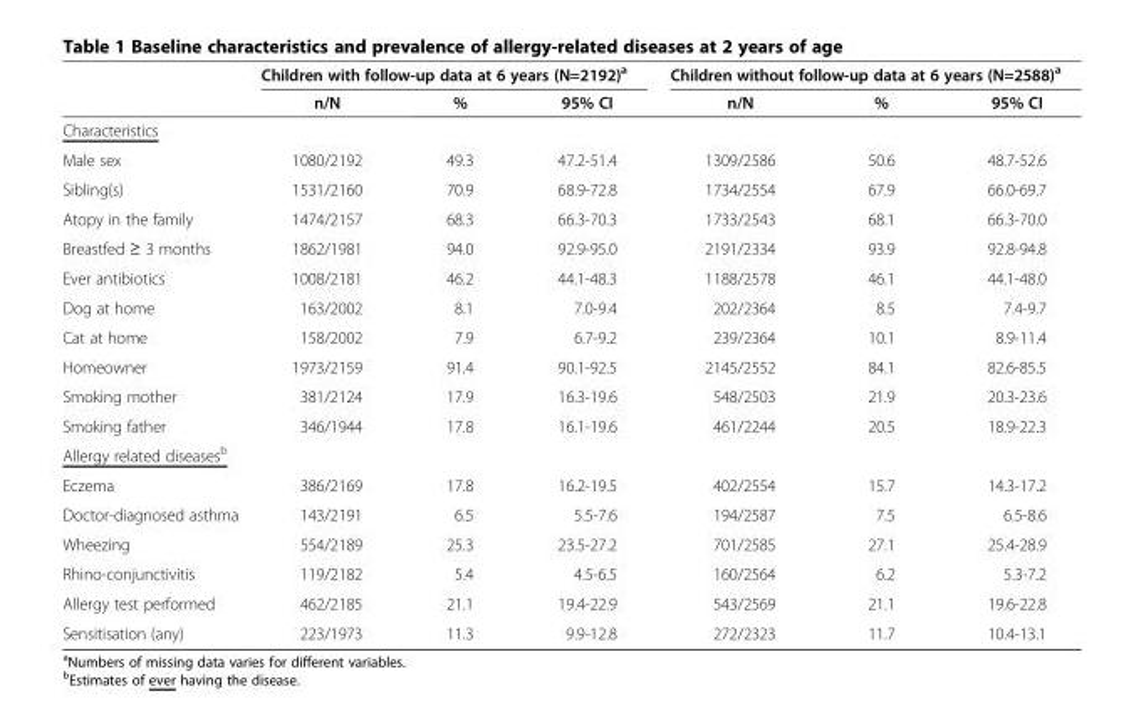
<table><thead><tr><td rowspan="2"></td><td colspan="3">Children with follow-up data at 6 years (N=2192)<sup>a</sup></td><td colspan="3">Children without follow-up data at 6 years (N=2588)<sup>a</sup></td></tr><tr><td>n/N</td><td>%</td><td>95% CI</td><td>n/N</td><td>%</td><td>95% CI</td></tr></thead><tbody><tr><td colspan="7">Characteristics</td></tr><tr><td>Male sex</td><td>1080/2192</td><td>49.3</td><td>47.2-51.4</td><td>1309/2586</td><td>50.6</td><td>48.7-52.6</td></tr><tr><td>Sibling(s)</td><td>1531/2160</td><td>70.9</td><td>68.9-72.8</td><td>1734/2554</td><td>67.9</td><td>66.0-69.7</td></tr><tr><td>Atopy in the family</td><td>1474/2157</td><td>68.3</td><td>66.3-70.3</td><td>1733/2543</td><td>68.1</td><td>66.3-70.0</td></tr><tr><td>Breastfed ≥ 3 months</td><td>1862/1981</td><td>94.0</td><td>92.9-95.0</td><td>2191/2334</td><td>93.9</td><td>92.8-94.8</td></tr><tr><td>Ever antibiotics</td><td>1008/2181</td><td>46.2</td><td>44.1-48.3</td><td>1188/2578</td><td>46.1</td><td>44.1-48.0</td></tr><tr><td>Dog at home</td><td>163/2002</td><td>8.1</td><td>7.0-9.4</td><td>202/2364</td><td>8.5</td><td>7.4-9.7</td></tr><tr><td>Cat at home</td><td>158/2002</td><td>7.9</td><td>6.7-9.2</td><td>239/2364</td><td>10.1</td><td>8.9-11.4</td></tr><tr><td>Homeowner</td><td>1973/2159</td><td>91.4</td><td>90.1-92.5</td><td>2145/2552</td><td>84.1</td><td>82.6-85.5</td></tr><tr><td>Smoking mother</td><td>381/2124</td><td>17.9</td><td>16.3-19.6</td><td>548/2503</td><td>21.9</td><td>20.3-23.6</td></tr><tr><td>Smoking father</td><td>346/1944</td><td>17.8</td><td>16.1-19.6</td><td>461/2244</td><td>20.5</td><td>18.9-22.3</td></tr><tr><td colspan="7">Allergy related diseases<sup>b</sup></td></tr><tr><td>Eczema</td><td>386/2169</td><td>17.8</td><td>16.2-19.5</td><td>402/2554</td><td>15.7</td><td>14.3-17.2</td></tr><tr><td>Doctor-diagnosed asthma</td><td>143/2191</td><td>6.5</td><td>5.5-7.6</td><td>194/2587</td><td>7.5</td><td>6.5-8.6</td></tr><tr><td>Wheezing</td><td>554/2189</td><td>25.3</td><td>23.5-27.2</td><td>701/2585</td><td>27.1</td><td>25.4-28.9</td></tr><tr><td>Rhino-conjunctivitis</td><td>119/2182</td><td>5.4</td><td>4.5-6.5</td><td>160/2564</td><td>6.2</td><td>5.3-7.2</td></tr><tr><td>Allergy test performed</td><td>462/2185</td><td>21.1</td><td>19.4-22.9</td><td>543/2569</td><td>21.1</td><td>19.6-22.8</td></tr><tr><td>Sensitisation (any)</td><td>223/1973</td><td>11.3</td><td>9.9-12.8</td><td>272/2323</td><td>11.7</td><td>10.4-13.1</td></tr></tbody></table>